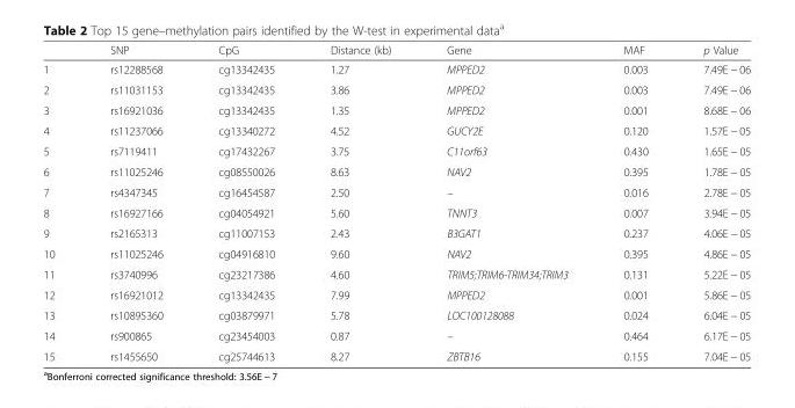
<table><thead><tr><td></td><td>SNP</td><td>CpG</td><td>Distance (kb)</td><td>Gene</td><td>MAF</td><td>p Value</td></tr></thead><tbody><tr><td>1</td><td>rs12288568</td><td>cg13342435</td><td>1.27</td><td>MPPED2</td><td>0.003</td><td>7.49E − 06</td></tr><tr><td>2</td><td>rs11031153</td><td>cg13342435</td><td>3.86</td><td>MPPED2</td><td>0.003</td><td>7.49E − 06</td></tr><tr><td>3</td><td>rs16921036</td><td>cg13342435</td><td>1.35</td><td>MPPED2</td><td>0.001</td><td>8.68E − 06</td></tr><tr><td>4</td><td>rs11237066</td><td>cg13340272</td><td>4.52</td><td>GUCY2E</td><td>0.120</td><td>1.57E − 05</td></tr><tr><td>5</td><td>rs7119411</td><td>cg17432267</td><td>3.75</td><td>C11orf63</td><td>0.430</td><td>1.65E − 05</td></tr><tr><td>6</td><td>rs11025246</td><td>cg08550026</td><td>8.63</td><td>NAV2</td><td>0.395</td><td>1.78E − 05</td></tr><tr><td>7</td><td>rs4347345</td><td>cg16454587</td><td>2.50</td><td>–</td><td>0.016</td><td>2.78E − 05</td></tr><tr><td>8</td><td>rs16927166</td><td>cg04054921</td><td>5.60</td><td>TNNT3</td><td>0.007</td><td>3.94E − 05</td></tr><tr><td>9</td><td>rs2165313</td><td>cg11007153</td><td>2.43</td><td>B3GAT1</td><td>0.237</td><td>4.06E − 05</td></tr><tr><td>10</td><td>rs11025246</td><td>cg04916810</td><td>9.60</td><td>NAV2</td><td>0.395</td><td>4.86E − 05</td></tr><tr><td>11</td><td>rs3740996</td><td>cg23217386</td><td>4.60</td><td>TRIM5;TRIM6-TRIM34;TRIM3</td><td>0.131</td><td>5.22E − 05</td></tr><tr><td>12</td><td>rs16921012</td><td>cg13342435</td><td>7.99</td><td>MPPED2</td><td>0.001</td><td>5.86E − 05</td></tr><tr><td>13</td><td>rs10895360</td><td>cg03879971</td><td>5.78</td><td>LOC100128088</td><td>0.024</td><td>6.04E − 05</td></tr><tr><td>14</td><td>rs900865</td><td>cg23454003</td><td>0.87</td><td>–</td><td>0.464</td><td>6.17E − 05</td></tr><tr><td>15</td><td>rs1455650</td><td>cg25744613</td><td>8.27</td><td>ZBTB16</td><td>0.155</td><td>7.04E − 05</td></tr></tbody></table>